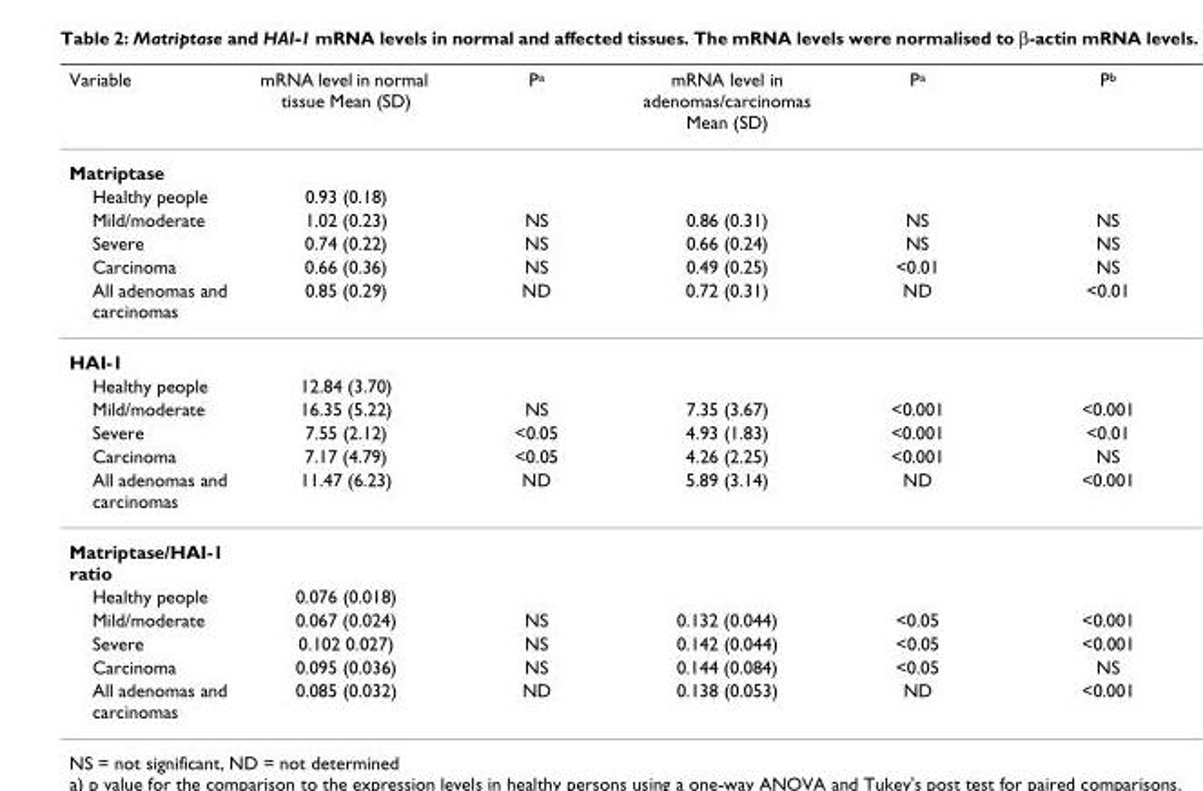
<table><thead><tr><td>Variable</td><td>mRNA level in normal tissue Mean (SD)</td><td>Pa</td><td>mRNA level in adenomas/carcinomas Mean (SD)</td><td>Pa</td><td>Pb</td></tr></thead><tbody><tr><td colspan="6">Matriptase</td></tr><tr><td>Healthy people</td><td>0.93 (0.18)</td><td></td><td></td><td></td><td></td></tr><tr><td>Mild/moderate</td><td>1.02 (0.23)</td><td>NS</td><td>0.86 (0.31)</td><td>NS</td><td>NS</td></tr><tr><td>Severe</td><td>0.74 (0.22)</td><td>NS</td><td>0.66 (0.24)</td><td>NS</td><td>NS</td></tr><tr><td>Carcinoma</td><td>0.66 (0.36)</td><td>NS</td><td>0.49 (0.25)</td><td>&lt;0.01</td><td>NS</td></tr><tr><td>All adenomas and carcinomas</td><td>0.85 (0.29)</td><td>ND</td><td>0.72 (0.31)</td><td>ND</td><td>&lt;0.01</td></tr><tr><td colspan="6">HAI-1</td></tr><tr><td>Healthy people</td><td>12.84 (3.70)</td><td></td><td></td><td></td><td></td></tr><tr><td>Mild/moderate</td><td>16.35 (5.22)</td><td>NS</td><td>7.35 (3.67)</td><td>&lt;0.001</td><td>&lt;0.001</td></tr><tr><td>Severe</td><td>7.55 (2.12)</td><td>&lt;0.05</td><td>4.93 (1.83)</td><td>&lt;0.001</td><td>&lt;0.01</td></tr><tr><td>Carcinoma</td><td>7.17 (4.79)</td><td>&lt;0.05</td><td>4.26 (2.25)</td><td>&lt;0.001</td><td>NS</td></tr><tr><td>All adenomas and carcinomas</td><td>11.47 (6.23)</td><td>ND</td><td>5.89 (3.14)</td><td>ND</td><td>&lt;0.001</td></tr><tr><td colspan="6">Matriptase/HAI-1 ratio</td></tr><tr><td>Healthy people</td><td>0.076 (0.018)</td><td></td><td></td><td></td><td></td></tr><tr><td>Mild/moderate</td><td>0.067 (0.024)</td><td>NS</td><td>0.132 (0.044)</td><td>&lt;0.05</td><td>&lt;0.001</td></tr><tr><td>Severe</td><td>0.102 0.027)</td><td>NS</td><td>0.142 (0.044)</td><td>&lt;0.05</td><td>&lt;0.001</td></tr><tr><td>Carcinoma</td><td>0.095 (0.036)</td><td>NS</td><td>0.144 (0.084)</td><td>&lt;0.05</td><td>NS</td></tr><tr><td>All adenomas and carcinomas</td><td>0.085 (0.032)</td><td>ND</td><td>0.138 (0.053)</td><td>ND</td><td>&lt;0.001</td></tr></tbody></table>